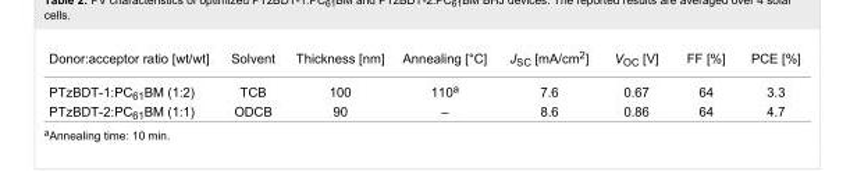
<table><tbody><tr><td>Donor:acceptor ratio [wt/wt]</td><td>Solvent</td><td>Thickness [nm]</td><td>Annealing [°C]</td><td>J<sub>SC</sub> [mA/cm<sup>2</sup>]</td><td>V<sub>OC</sub> [V]</td><td>FF [%]</td><td>PCE [%]</td></tr><tr><td>PTzBDT-1:PC<sub>61</sub>BM (1:2)</td><td>TCB</td><td>100</td><td>110<sup>a</sup></td><td>7.6</td><td>0.67</td><td>64</td><td>3.3</td></tr><tr><td>PTzBDT-2:PC<sub>61</sub>BM (1:1)</td><td>ODCB</td><td>90</td><td>–</td><td>8.6</td><td>0.86</td><td>64</td><td>4.7</td></tr></tbody></table>